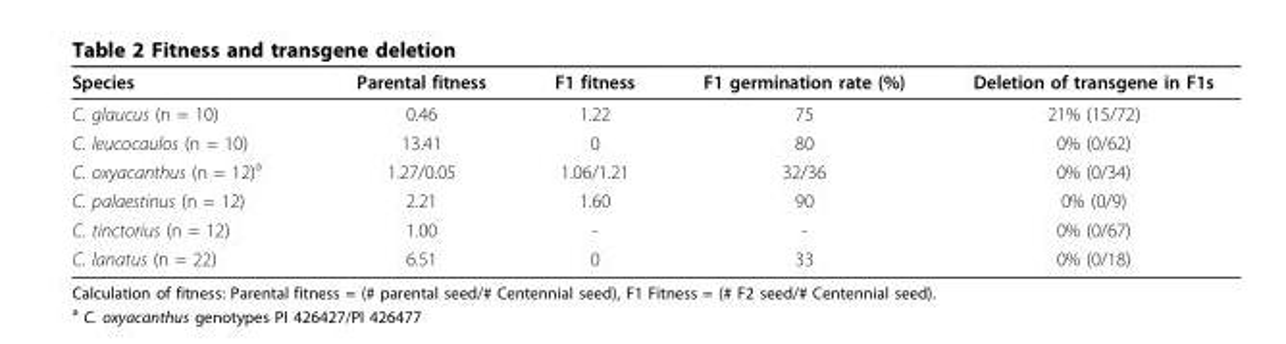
<table><thead><tr><td>Species</td><td>Parental fitness</td><td>F1 fitness</td><td>F1 germination rate (%)</td><td>Deletion of transgene in F1s</td></tr></thead><tbody><tr><td>C. glaucus (n = 10)</td><td>0.46</td><td>1.22</td><td>75</td><td>21% (15/72)</td></tr><tr><td>C. leucocaulos (n = 10)</td><td>13.41</td><td>0</td><td>80</td><td>0% (0/62)</td></tr><tr><td>C. oxyacanthus (n = 12)<sup>a</sup></td><td>1.27/0.05</td><td>1.06/1.21</td><td>32/36</td><td>0% (0/34)</td></tr><tr><td>C. palaestinus (n = 12)</td><td>2.21</td><td>1.60</td><td>90</td><td>0% (0/9)</td></tr><tr><td>C. tinctorius (n = 12)</td><td>1.00</td><td>-</td><td>-</td><td>0% (0/67)</td></tr><tr><td>C. lanatus (n = 22)</td><td>6.51</td><td>0</td><td>33</td><td>0% (0/18)</td></tr></tbody></table>